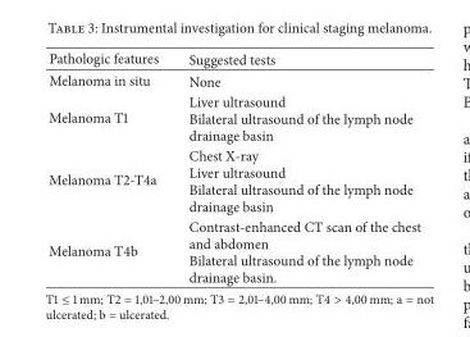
<table><thead><tr><td>Pathologic features</td><td>Suggested tests</td></tr></thead><tbody><tr><td>Melanoma in situ</td><td>None</td></tr><tr><td>Melanoma T1</td><td>Liver ultrasound Bilateral ultrasound of the lymph node drainage basin</td></tr><tr><td>Melanoma T2-T4a</td><td>Chest X-ray Liver ultrasound Bilateral ultrasound of the lymph node drainage basin</td></tr><tr><td>Melanoma T4b</td><td>Contrast-enhanced CT scan of the chest and abdomen Bilateral ultrasound of the lymph node drainage basin.</td></tr></tbody></table>